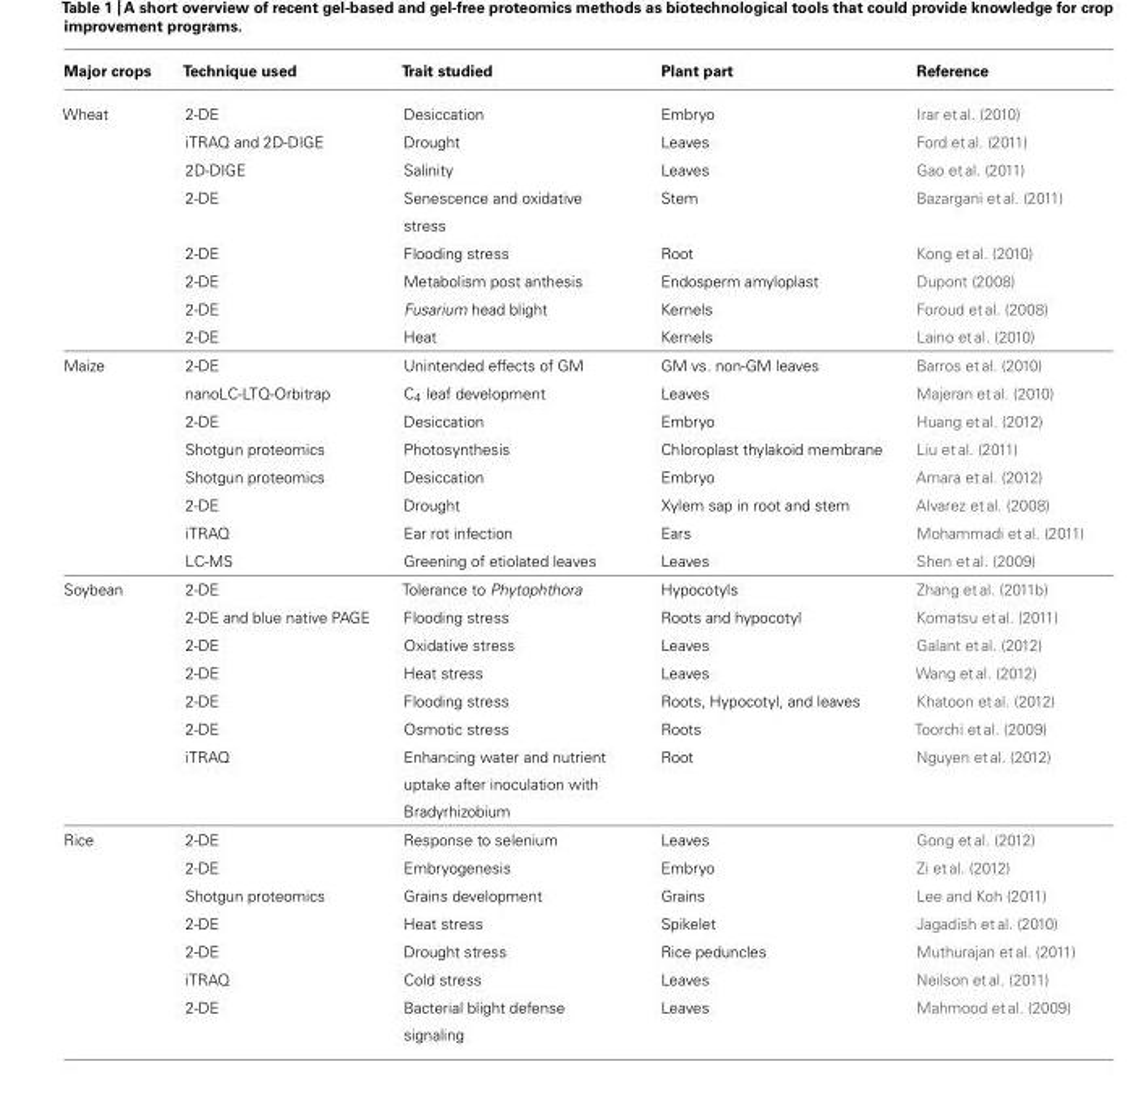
<table><thead><tr><td>Major crops</td><td>Technique used</td><td>Trait studied</td><td>Plant part</td><td>Reference</td></tr></thead><tbody><tr><td rowspan="8">Wheat</td><td>2-DE</td><td>Desiccation</td><td>Embryo</td><td>Irar et al. (2010)</td></tr><tr><td>iTRAQ and 2D-DIGE</td><td>Drought</td><td>Leaves</td><td>Ford et al. (2011)</td></tr><tr><td>2D-DIGE</td><td>Salinity</td><td>Leaves</td><td>Gao et al. (2011)</td></tr><tr><td>2-DE</td><td>Senescence and oxidative stress</td><td>Stem</td><td>Bazargani et al. (2011)</td></tr><tr><td>2-DE</td><td>Flooding stress</td><td>Root</td><td>Kong et al. (2010)</td></tr><tr><td>2-DE</td><td>Metabolism post anthesis</td><td>Endosperm amyloplast</td><td>Dupont (2008)</td></tr><tr><td>2-DE</td><td>Fusarium head blight</td><td>Kernels</td><td>Foroud et al. (2008)</td></tr><tr><td>2-DE</td><td>Heat</td><td>Kernels</td><td>Laino et al. (2010)</td></tr><tr><td rowspan="8">Maize</td><td>2-DE</td><td>Unintended effects of GM</td><td>GM vs. non-GM leaves</td><td>Barros et al. (2010)</td></tr><tr><td>nanoLC-LTQ-Orbitrap</td><td>C<sub>4</sub> leaf development</td><td>Leaves</td><td>Majeran et al. (2010)</td></tr><tr><td>2-DE</td><td>Desiccation</td><td>Embryo</td><td>Huang et al. (2012)</td></tr><tr><td>Shotgun proteomics</td><td>Photosynthesis</td><td>Chloroplast thylakoid membrane</td><td>Liu et al. (2011)</td></tr><tr><td>Shotgun proteomics</td><td>Desiccation</td><td>Embryo</td><td>Amara et al. (2012)</td></tr><tr><td>2-DE</td><td>Drought</td><td>Xylem sap in root and stem</td><td>Alvarez et al. (2008)</td></tr><tr><td>iTRAQ</td><td>Ear rot infection</td><td>Ears</td><td>Mohammadi et al. (2011)</td></tr><tr><td>LC-MS</td><td>Greening of etiolated leaves</td><td>Leaves</td><td>Shen et al. (2009)</td></tr><tr><td rowspan="7">Soybean</td><td>2-DE</td><td>Tolerance to Phytophthora</td><td>Hypocotyls</td><td>Zhang et al. (2011b)</td></tr><tr><td>2-DE and blue native PAGE</td><td>Flooding stress</td><td>Roots and hypocotyl</td><td>Komatsu et al. (2011)</td></tr><tr><td>2-DE</td><td>Oxidative stress</td><td>Leaves</td><td>Galant et al. (2012)</td></tr><tr><td>2-DE</td><td>Heat stress</td><td>Leaves</td><td>Wang et al. (2012)</td></tr><tr><td>2-DE</td><td>Flooding stress</td><td>Roots, Hypocotyl, and leaves</td><td>Khatoon et al. (2012)</td></tr><tr><td>2-DE</td><td>Osmotic stress</td><td>Roots</td><td>Toorchi et al. (2009)</td></tr><tr><td>iTRAQ</td><td>Enhancing water and nutrient uptake after inoculation with Bradyrhizobium</td><td>Root</td><td>Nguyen et al. (2012)</td></tr><tr><td rowspan="7">Rice</td><td>2-DE</td><td>Response to selenium</td><td>Leaves</td><td>Gong et al. (2012)</td></tr><tr><td>2-DE</td><td>Embryogenesis</td><td>Embryo</td><td>Zi et al. (2012)</td></tr><tr><td>Shotgun proteomics</td><td>Grains development</td><td>Grains</td><td>Lee and Koh (2011)</td></tr><tr><td>2-DE</td><td>Heat stress</td><td>Spikelet</td><td>Jagadish et al. (2010)</td></tr><tr><td>2-DE</td><td>Drought stress</td><td>Rice peduncles</td><td>Muthurajan et al. (2011)</td></tr><tr><td>iTRAQ</td><td>Cold stress</td><td>Leaves</td><td>Neilson et al. (2011)</td></tr><tr><td>2-DE</td><td>Bacterial blight defense signaling</td><td>Leaves</td><td>Mahmood et al. (2009)</td></tr></tbody></table>